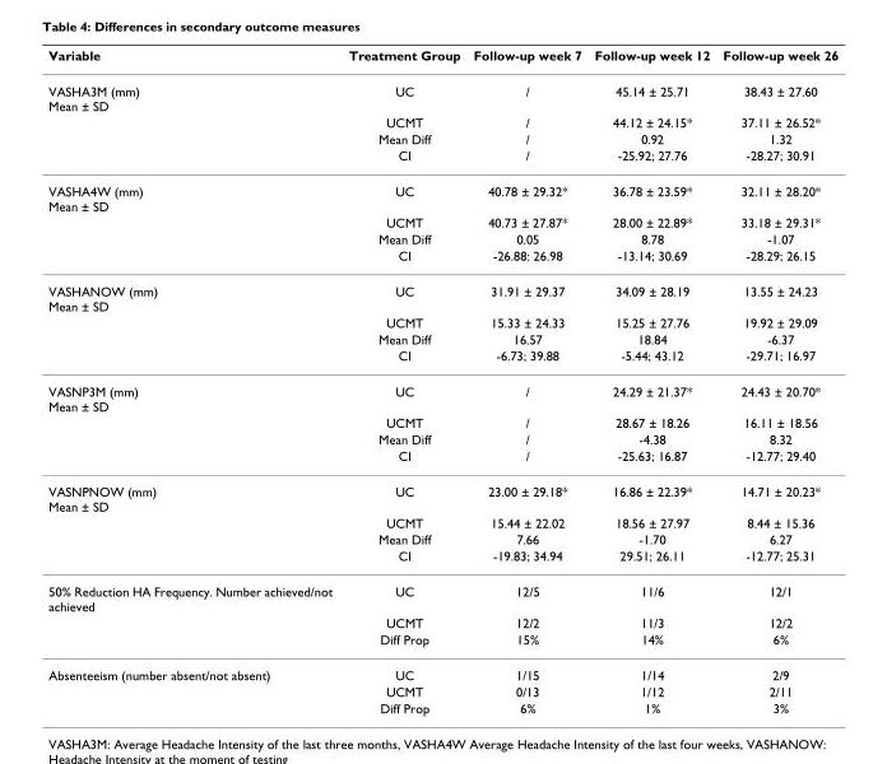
<table><thead><tr><td>Variable</td><td>Treatment Group</td><td>Follow-up week 7</td><td>Follow-up week 12</td><td>Follow-up week 26</td></tr></thead><tbody><tr><td rowspan="4">VASHA3M (mm) Mean ± SD</td><td>UC</td><td>/</td><td>45.14 ± 25.71</td><td>38.43 ± 27.60</td></tr><tr><td>UCMT</td><td>/</td><td>44.12 ± 24.15*</td><td>37.11 ± 26.52*</td></tr><tr><td>Mean Diff</td><td>/</td><td>0.92</td><td>1.32</td></tr><tr><td>CI</td><td>/</td><td>-25.92; 27.76</td><td>-28.27; 30.91</td></tr><tr><td rowspan="4">VASHA4W (mm) Mean ± SD</td><td>UC</td><td>40.78 ± 29.32*</td><td>36.78 ± 23.59*</td><td>32.11 ± 28.20*</td></tr><tr><td>UCMT</td><td>40.73 ± 27.87*</td><td>28.00 ± 22.89*</td><td>33.18 ± 29.31*</td></tr><tr><td>Mean Diff</td><td>0.05</td><td>8.78</td><td>-1.07</td></tr><tr><td>CI</td><td>-26.88: 26.98</td><td>-13.14; 30.69</td><td>-28.29; 26.15</td></tr><tr><td rowspan="4">VASHANOW (mm) Mean ± SD</td><td>UC</td><td>31.91 ± 29.37</td><td>34.09 ± 28.19</td><td>13.55 ± 24.23</td></tr><tr><td>UCMT</td><td>15.33 ± 24.33</td><td>15.25 ± 27.76</td><td>19.92 ± 29.09</td></tr><tr><td>Mean Diff</td><td>16.57</td><td>18.84</td><td>-6.37</td></tr><tr><td>CI</td><td>-6.73; 39.88</td><td>-5.44; 43.12</td><td>-29.71; 16.97</td></tr><tr><td rowspan="4">VASNP3M (mm) Mean ± SD</td><td>UC</td><td>/</td><td>24.29 ± 21.37*</td><td>24.43 ± 20.70*</td></tr><tr><td>UCMT</td><td>/</td><td>28.67 ± 18.26</td><td>16.11 ± 18.56</td></tr><tr><td>Mean Diff</td><td>/</td><td>-4.38</td><td>8.32</td></tr><tr><td>CI</td><td>/</td><td>-25.63; 16.87</td><td>-12.77; 29.40</td></tr><tr><td rowspan="4">VASNPNOW (mm) Mean ± SD</td><td>UC</td><td>23.00 ± 29.18*</td><td>16.86 ± 22.39*</td><td>14.71 ± 20.23*</td></tr><tr><td>UCMT</td><td>15.44 ± 22.02</td><td>18.56 ± 27.97</td><td>8.44 ± 15.36</td></tr><tr><td>Mean Diff</td><td>7.66</td><td>-1.70</td><td>6.27</td></tr><tr><td>CI</td><td>-19.83; 34.94</td><td>29.51; 26.11</td><td>-12.77; 25.31</td></tr><tr><td rowspan="3">50% Reduction HA Frequency. Number achieved/not achieved</td><td>UC</td><td>12/5</td><td>11/6</td><td>12/1</td></tr><tr><td>UCMT</td><td>12/2</td><td>11/3</td><td>12/2</td></tr><tr><td>Diff Prop</td><td>15%</td><td>14%</td><td>6%</td></tr><tr><td rowspan="3">Absenteeism (number absent/not absent)</td><td>UC</td><td>1/15</td><td>1/14</td><td>2/9</td></tr><tr><td>UCMT</td><td>0/13</td><td>1/12</td><td>2/11</td></tr><tr><td>Diff Prop</td><td>6%</td><td>1%</td><td>3%</td></tr></tbody></table>